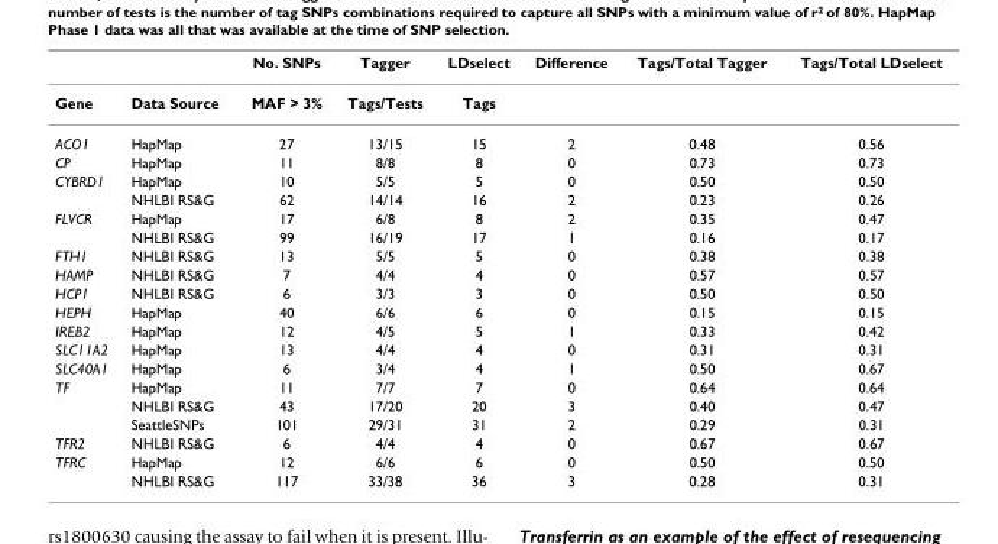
<table><thead><tr><td></td><td></td><td>No. SNPs</td><td>Tagger</td><td>LDselect</td><td>Difference</td><td>Tags/Total Tagger</td><td>Tags/Total LDselect</td></tr></thead><tbody><tr><td>Gene</td><td>Data Source</td><td>MAF &gt; 3%</td><td>Tags/Tests</td><td>Tags</td><td></td><td></td><td></td></tr><tr><td>ACO1</td><td>HapMap</td><td>27</td><td>13/15</td><td>15</td><td>2</td><td>0.48</td><td>0.56</td></tr><tr><td>CP</td><td>HapMap</td><td>11</td><td>8/8</td><td>8</td><td>0</td><td>0.73</td><td>0.73</td></tr><tr><td rowspan="2">CYBRD1</td><td>HapMap</td><td>10</td><td>5/5</td><td>5</td><td>0</td><td>0.50</td><td>0.50</td></tr><tr><td>NHLBI RS&amp;G</td><td>62</td><td>14/14</td><td>16</td><td>2</td><td>0.23</td><td>0.26</td></tr><tr><td rowspan="2">FLVCR</td><td>HapMap</td><td>17</td><td>6/8</td><td>8</td><td>2</td><td>0.35</td><td>0.47</td></tr><tr><td>NHLBI RS&amp;G</td><td>99</td><td>16/19</td><td>17</td><td>1</td><td>0.16</td><td>0.17</td></tr><tr><td>FTH1</td><td>NHLBI RS&amp;G</td><td>13</td><td>5/5</td><td>5</td><td>0</td><td>0.38</td><td>0.38</td></tr><tr><td>HAMP</td><td>NHLBI RS&amp;G</td><td>7</td><td>4/4</td><td>4</td><td>0</td><td>0.57</td><td>0.57</td></tr><tr><td>HCP1</td><td>NHLBI RS&amp;G</td><td>6</td><td>3/3</td><td>3</td><td>0</td><td>0.50</td><td>0.50</td></tr><tr><td>HEPH</td><td>HapMap</td><td>40</td><td>6/6</td><td>6</td><td>0</td><td>0.15</td><td>0.15</td></tr><tr><td>IREB2</td><td>HapMap</td><td>12</td><td>4/5</td><td>5</td><td>1</td><td>0.33</td><td>0.42</td></tr><tr><td>SLC11A2</td><td>HapMap</td><td>13</td><td>4/4</td><td>4</td><td>0</td><td>0.31</td><td>0.31</td></tr><tr><td>SLC40A1</td><td>HapMap</td><td>6</td><td>3/4</td><td>4</td><td>1</td><td>0.50</td><td>0.67</td></tr><tr><td rowspan="3">TF</td><td>HapMap</td><td>11</td><td>7/7</td><td>7</td><td>0</td><td>0.64</td><td>0.64</td></tr><tr><td>NHLBI RS&amp;G</td><td>43</td><td>17/20</td><td>20</td><td>3</td><td>0.40</td><td>0.47</td></tr><tr><td>SeattleSNPs</td><td>101</td><td>29/31</td><td>31</td><td>2</td><td>0.29</td><td>0.31</td></tr><tr><td>TFR2</td><td>NHLBI RS&amp;G</td><td>6</td><td>4/4</td><td>4</td><td>0</td><td>0.67</td><td>0.67</td></tr><tr><td rowspan="2">TFRC</td><td>HapMap</td><td>12</td><td>6/6</td><td>6</td><td>0</td><td>0.50</td><td>0.50</td></tr><tr><td>NHLBI RS&amp;G</td><td>117</td><td>33/38</td><td>36</td><td>3</td><td>0.28</td><td>0.31</td></tr></tbody></table>